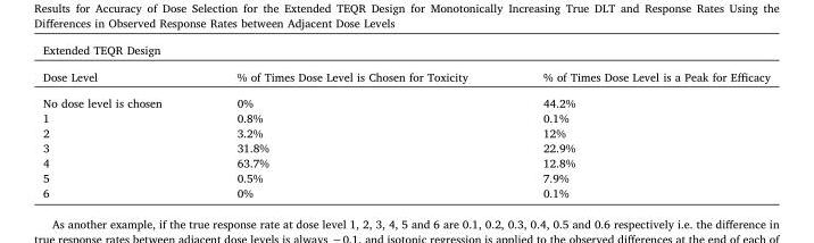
<table><thead><tr><td colspan="3">Extended TEQR Design</td></tr><tr><td>Dose Level</td><td>% of Times Dose Level is Chosen for Toxicity</td><td>% of Times Dose Level is a Peak for Efficacy</td></tr></thead><tbody><tr><td>No dose level is chosen</td><td>0%</td><td>44.2%</td></tr><tr><td>1</td><td>0.8%</td><td>0.1%</td></tr><tr><td>2</td><td>3.2%</td><td>12%</td></tr><tr><td>3</td><td>31.8%</td><td>22.9%</td></tr><tr><td>4</td><td>63.7%</td><td>12.8%</td></tr><tr><td>5</td><td>0.5%</td><td>7.9%</td></tr><tr><td>6</td><td>0%</td><td>0.1%</td></tr></tbody></table>